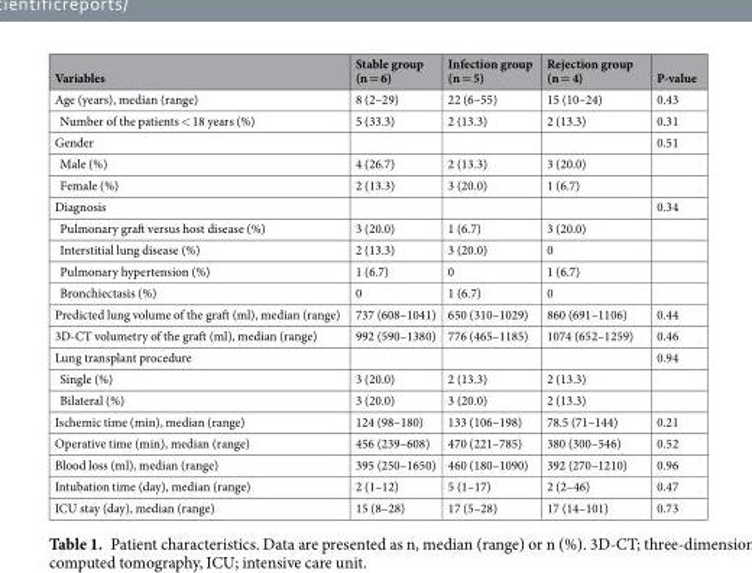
<table><thead><tr><td>Variables</td><td>Stable group (n = 6)</td><td>Infection group (n = 5)</td><td>Rejection group (n = 4)</td><td>P-value</td></tr></thead><tbody><tr><td>Age (years), median (range)</td><td>8 (2–29)</td><td>22 (6–55)</td><td>15 (10–24)</td><td>0.43</td></tr><tr><td>Number of the patients &lt; 18 years (%)</td><td>5 (33.3)</td><td>2 (13.3)</td><td>2 (13.3)</td><td>0.31</td></tr><tr><td>Gender</td><td></td><td></td><td></td><td>0.51</td></tr><tr><td>Male (%)</td><td>4 (26.7)</td><td>2 (13.3)</td><td>3 (20.0)</td><td></td></tr><tr><td>Female (%)</td><td>2 (13.3)</td><td>3 (20.0)</td><td>1 (6.7)</td><td></td></tr><tr><td>Diagnosis</td><td></td><td></td><td></td><td>0.34</td></tr><tr><td>Pulmonary graft versus host disease (%)</td><td>3 (20.0)</td><td>1 (6.7)</td><td>3 (20.0)</td><td></td></tr><tr><td>Interstitial lung disease (%)</td><td>2 (13.3)</td><td>3 (20.0)</td><td>0</td><td></td></tr><tr><td>Pulmonary hypertension (%)</td><td>1 (6.7)</td><td>0</td><td>1 (6.7)</td><td></td></tr><tr><td>Bronchiectasis (%)</td><td>0</td><td>1 (6.7)</td><td>0</td><td></td></tr><tr><td>Predicted lung volume of the graft (ml), median (range)</td><td>737 (608–1041)</td><td>650 (310–1029)</td><td>860 (691–1106)</td><td>0.44</td></tr><tr><td>3D-CT volumetry of the graft (ml), median (range)</td><td>992 (590–1380)</td><td>776 (465–1185)</td><td>1074 (652–1259)</td><td>0.46</td></tr><tr><td>Lung transplant procedure</td><td></td><td></td><td></td><td>0.94</td></tr><tr><td>Single (%)</td><td>3 (20.0)</td><td>2 (13.3)</td><td>2 (13.3)</td><td></td></tr><tr><td>Bilateral (%)</td><td>3 (20.0)</td><td>3 (20.0)</td><td>2 (13.3)</td><td></td></tr><tr><td>Ischemic time (min), median (range)</td><td>124 (98–180)</td><td>133 (106–198)</td><td>78.5 (71–144)</td><td>0.21</td></tr><tr><td>Operative time (min), median (range)</td><td>456 (239–608)</td><td>470 (221–785)</td><td>380 (300–546)</td><td>0.52</td></tr><tr><td>Blood loss (ml), median (range)</td><td>395 (250–1650)</td><td>460 (180–1090)</td><td>392 (270–1210)</td><td>0.96</td></tr><tr><td>Intubation time (day), median (range)</td><td>2 (1–12)</td><td>5 (1–17)</td><td>2 (2–46)</td><td>0.47</td></tr><tr><td>ICU stay (day), median (range)</td><td>15 (8–28)</td><td>17 (5–28)</td><td>17 (14–101)</td><td>0.73</td></tr></tbody></table>